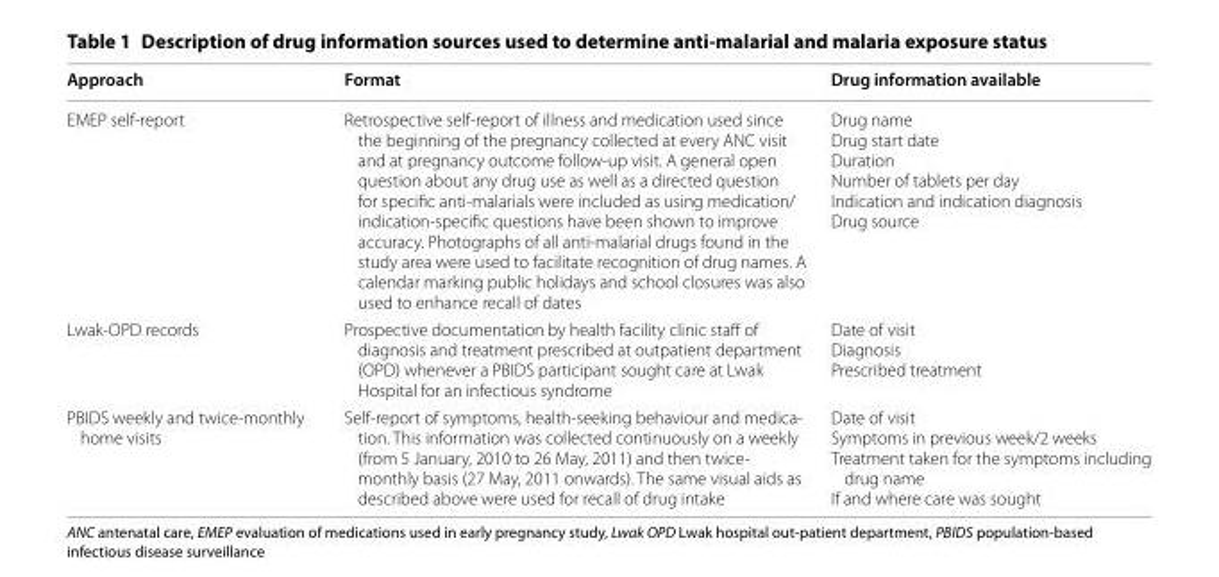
<table><thead><tr><td>Approach</td><td>Format</td><td>Drug information available</td></tr></thead><tbody><tr><td>EMEP self-report</td><td>Retrospective self-report of illness and medication used since the beginning of the pregnancy collected at every ANC visit and at pregnancy outcome follow-up visit. A general open question about any drug use as well as a directed question for specific anti-malarials were included as using medication/ indication-specific questions have been shown to improve accuracy. Photographs of all anti-malarial drugs found in the study area were used to facilitate recognition of drug names. A calendar marking public holidays and school closures was also used to enhance recall of dates</td><td>Drug name Drug start date Duration Number of tablets per day Indication and indication diagnosis Drug source</td></tr><tr><td>Lwak-OPD records</td><td>Prospective documentation by health facility clinic staff of diagnosis and treatment prescribed at outpatient department (OPD) whenever a PBIDS participant sought care at Lwak Hospital for an infectious syndrome</td><td>Date of visit Diagnosis Prescribed treatment</td></tr><tr><td>PBIDS weekly and twice-monthly home visits</td><td>Self-report of symptoms, health-seeking behaviour and medica- tion. This information was collected continuously on a weekly (from 5 January, 2010 to 26 May, 2011) and then twice- monthly basis (27 May, 2011 onwards). The same visual aids as described above were used for recall of drug intake</td><td>Date of visit Symptoms in previous week/2 weeks Treatment taken for the symptoms including drug name If and where care was sought</td></tr></tbody></table>